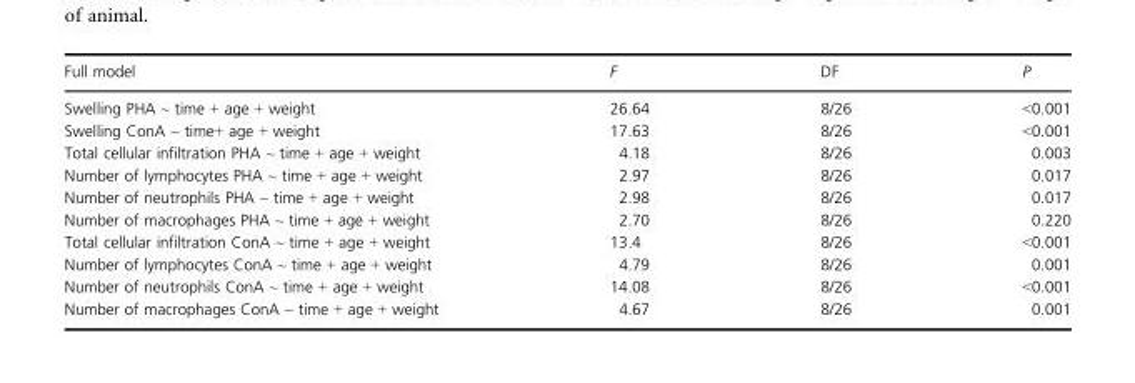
<table><thead><tr><td>Full model</td><td>F</td><td>DF</td><td>P</td></tr></thead><tbody><tr><td>Swelling PHA ~ time + age + weight</td><td>26.64</td><td>8/26</td><td>&lt;0.001</td></tr><tr><td>Swelling ConA ~ time+ age + weight</td><td>17.63</td><td>8/26</td><td>&lt;0.001</td></tr><tr><td>Total cellular infiltration PHA ~ time + age + weight</td><td>4.18</td><td>8/26</td><td>0.003</td></tr><tr><td>Number of lymphocytes PHA ~ time + age + weight</td><td>2.97</td><td>8/26</td><td>0.017</td></tr><tr><td>Number of neutrophils PHA ~ time + age + weight</td><td>2.98</td><td>8/26</td><td>0.017</td></tr><tr><td>Number of macrophages PHA ~ time + age + weight</td><td>2.70</td><td>8/26</td><td>0.220</td></tr><tr><td>Total cellular infiltration ConA ~ time + age + weight</td><td>13.4</td><td>8/26</td><td>&lt;0.001</td></tr><tr><td>Number of lymphocytes ConA ~ time + age + weight</td><td>4.79</td><td>8/26</td><td>0.001</td></tr><tr><td>Number of neutrophils ConA ~ time + age + weight</td><td>14.08</td><td>8/26</td><td>&lt;0.001</td></tr><tr><td>Number of macrophages ConA ~ time + age + weight</td><td>4.67</td><td>8/26</td><td>0.001</td></tr></tbody></table>